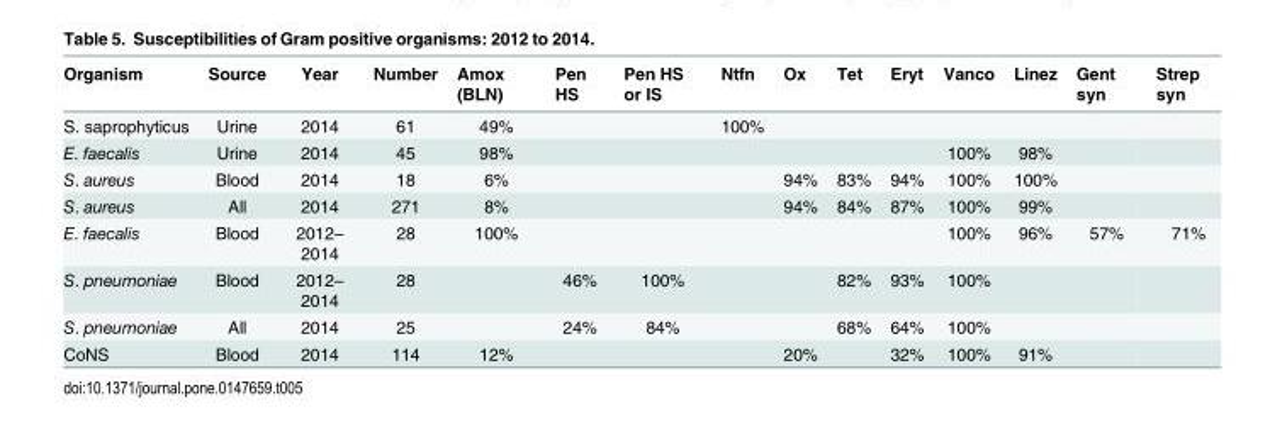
<table><thead><tr><td>Organism</td><td>Source</td><td>Year</td><td>Number</td><td>Amox (BLN)</td><td>Pen HS</td><td>Pen HS or IS</td><td>Ntfn</td><td>Ox</td><td>Tet</td><td>Eryt</td><td>Vanco</td><td>Linez</td><td>Gent syn</td><td>Strep syn</td></tr></thead><tbody><tr><td>S. saprophyticus</td><td>Urine</td><td>2014</td><td>61</td><td>49%</td><td></td><td></td><td>100%</td><td></td><td></td><td></td><td></td><td></td><td></td><td></td></tr><tr><td>E. faecalis</td><td>Urine</td><td>2014</td><td>45</td><td>98%</td><td></td><td></td><td></td><td></td><td></td><td></td><td>100%</td><td>98%</td><td></td><td></td></tr><tr><td>S. aureus</td><td>Blood</td><td>2014</td><td>18</td><td>6%</td><td></td><td></td><td></td><td>94%</td><td>83%</td><td>94%</td><td>100%</td><td>100%</td><td></td><td></td></tr><tr><td>S. aureus</td><td>All</td><td>2014</td><td>271</td><td>8%</td><td></td><td></td><td></td><td>94%</td><td>84%</td><td>87%</td><td>100%</td><td>99%</td><td></td><td></td></tr><tr><td>E. faecalis</td><td>Blood</td><td>2012– 2014</td><td>28</td><td>100%</td><td></td><td></td><td></td><td></td><td></td><td></td><td>100%</td><td>96%</td><td>57%</td><td>71%</td></tr><tr><td>S. pneumoniae</td><td>Blood</td><td>2012– 2014</td><td>28</td><td></td><td>46%</td><td>100%</td><td></td><td></td><td>82%</td><td>93%</td><td>100%</td><td></td><td></td><td></td></tr><tr><td>S. pneumoniae</td><td>All</td><td>2014</td><td>25</td><td></td><td>24%</td><td>84%</td><td></td><td></td><td>68%</td><td>64%</td><td>100%</td><td></td><td></td><td></td></tr><tr><td>CoNS</td><td>Blood</td><td>2014</td><td>114</td><td>12%</td><td></td><td></td><td></td><td>20%</td><td></td><td>32%</td><td>100%</td><td>91%</td><td></td><td></td></tr></tbody></table>